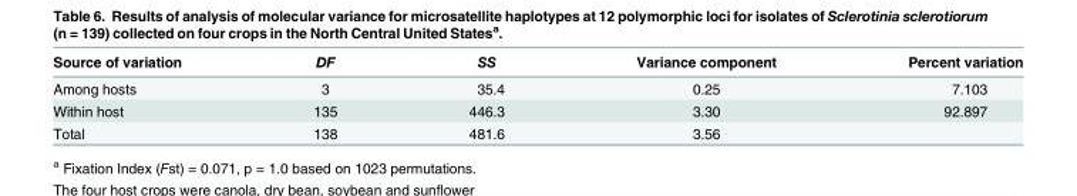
<table><thead><tr><td>Source of variation</td><td>DF</td><td>SS</td><td>Variance component</td><td>Percent variation</td></tr></thead><tbody><tr><td>Among hosts</td><td>3</td><td>35.4</td><td>0.25</td><td>7.103</td></tr><tr><td>Within host</td><td>135</td><td>446.3</td><td>3.30</td><td>92.897</td></tr><tr><td>Total</td><td>138</td><td>481.6</td><td>3.56</td><td></td></tr></tbody></table>